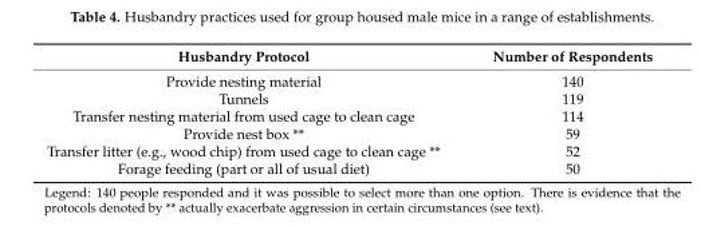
<table><thead><tr><td>Husbandry Protocol</td><td>Number of Respondents</td></tr></thead><tbody><tr><td>Provide nesting material</td><td>140</td></tr><tr><td>Tunnels</td><td>119</td></tr><tr><td>Transfer nesting material from used cage to clean cage</td><td>114</td></tr><tr><td>Provide nest box **</td><td>59</td></tr><tr><td>Transfer litter (e.g., wood chip) from used cage to clean cage **</td><td>52</td></tr><tr><td>Forage feeding (part or all of usual diet)</td><td>50</td></tr></tbody></table>